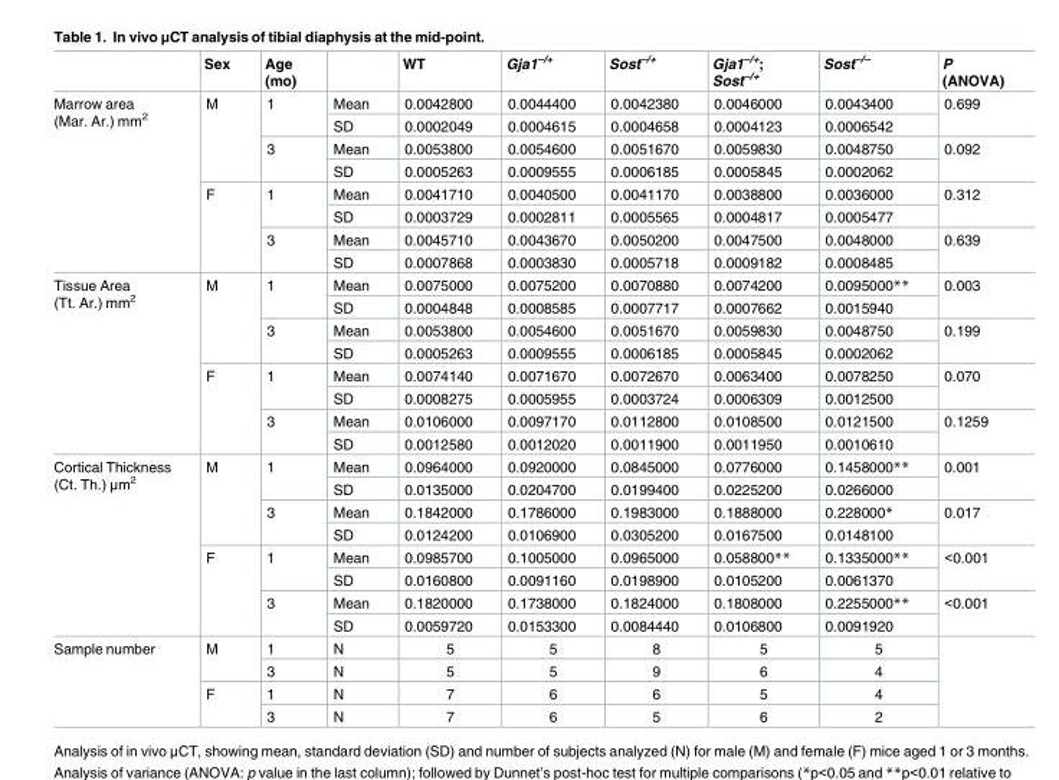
<table><thead><tr><td></td><td>Sex</td><td>Age (mo)</td><td></td><td>WT</td><td>Gja1<sup>–/+</sup></td><td>Sost<sup>–/+</sup></td><td>Gja1<sup>–/+</sup>; Sost<sup>–/+</sup></td><td>Sost<sup>–/–</sup></td><td>P (ANOVA)</td></tr></thead><tbody><tr><td rowspan="8">Marrow area (Mar. Ar.) mm<sup>2</sup></td><td rowspan="4">M</td><td rowspan="2">1</td><td>Mean</td><td>0.0042800</td><td>0.0044400</td><td>0.0042380</td><td>0.0046000</td><td>0.0043400</td><td rowspan="2">0.699</td></tr><tr><td>SD</td><td>0.0002049</td><td>0.0004615</td><td>0.0004658</td><td>0.0004123</td><td>0.0006542</td></tr><tr><td rowspan="2">3</td><td>Mean</td><td>0.0053800</td><td>0.0054600</td><td>0.0051670</td><td>0.0059830</td><td>0.0048750</td><td rowspan="2">0.092</td></tr><tr><td>SD</td><td>0.0005263</td><td>0.0009555</td><td>0.0006185</td><td>0.0005845</td><td>0.0002062</td></tr><tr><td rowspan="4">F</td><td rowspan="2">1</td><td>Mean</td><td>0.0041710</td><td>0.0040500</td><td>0.0041170</td><td>0.0038800</td><td>0.0036000</td><td rowspan="2">0.312</td></tr><tr><td>SD</td><td>0.0003729</td><td>0.0002811</td><td>0.0005565</td><td>0.0004817</td><td>0.0005477</td></tr><tr><td rowspan="2">3</td><td>Mean</td><td>0.0045710</td><td>0.0043670</td><td>0.0050200</td><td>0.0047500</td><td>0.0048000</td><td rowspan="2">0.639</td></tr><tr><td>SD</td><td>0.0007868</td><td>0.0003830</td><td>0.0005718</td><td>0.0009182</td><td>0.0008485</td></tr><tr><td rowspan="8">Tissue Area (Tt. Ar.) mm<sup>2</sup></td><td rowspan="4">M</td><td rowspan="2">1</td><td>Mean</td><td>0.0075000</td><td>0.0075200</td><td>0.0070880</td><td>0.0074200</td><td>0.0095000**</td><td rowspan="2">0.003</td></tr><tr><td>SD</td><td>0.0004848</td><td>0.0008585</td><td>0.0007717</td><td>0.0007662</td><td>0.0015940</td></tr><tr><td rowspan="2">3</td><td>Mean</td><td>0.0053800</td><td>0.0054600</td><td>0.0051670</td><td>0.0059830</td><td>0.0048750</td><td rowspan="2">0.199</td></tr><tr><td>SD</td><td>0.0005263</td><td>0.0009555</td><td>0.0006185</td><td>0.0005845</td><td>0.0002062</td></tr><tr><td rowspan="4">F</td><td rowspan="2">1</td><td>Mean</td><td>0.0074140</td><td>0.0071670</td><td>0.0072670</td><td>0.0063400</td><td>0.0078250</td><td rowspan="2">0.070</td></tr><tr><td>SD</td><td>0.0008275</td><td>0.0005955</td><td>0.0003724</td><td>0.0006309</td><td>0.0012500</td></tr><tr><td rowspan="2">3</td><td>Mean</td><td>0.0106000</td><td>0.0097170</td><td>0.0112800</td><td>0.0108500</td><td>0.0121500</td><td rowspan="2">0.1259</td></tr><tr><td>SD</td><td>0.0012580</td><td>0.0012020</td><td>0.0011900</td><td>0.0011950</td><td>0.0010610</td></tr><tr><td rowspan="8">Cortical Thickness (Ct. Th.) μm<sup>2</sup></td><td rowspan="4">M</td><td rowspan="2">1</td><td>Mean</td><td>0.0964000</td><td>0.0920000</td><td>0.0845000</td><td>0.0776000</td><td>0.1458000**</td><td rowspan="2">0.001</td></tr><tr><td>SD</td><td>0.0135000</td><td>0.0204700</td><td>0.0199400</td><td>0.0225200</td><td>0.0266000</td></tr><tr><td rowspan="2">3</td><td>Mean</td><td>0.1842000</td><td>0.1786000</td><td>0.1983000</td><td>0.1888000</td><td>0.228000*</td><td rowspan="2">0.017</td></tr><tr><td>SD</td><td>0.0124200</td><td>0.0106900</td><td>0.0305200</td><td>0.0167500</td><td>0.0148100</td></tr><tr><td rowspan="4">F</td><td rowspan="2">1</td><td>Mean</td><td>0.0985700</td><td>0.1005000</td><td>0.0965000</td><td>0.058800**</td><td>0.1335000**</td><td rowspan="2">&lt;0.001</td></tr><tr><td>SD</td><td>0.0160800</td><td>0.0091160</td><td>0.0198900</td><td>0.0105200</td><td>0.0061370</td></tr><tr><td rowspan="2">3</td><td>Mean</td><td>0.1820000</td><td>0.1738000</td><td>0.1824000</td><td>0.1808000</td><td>0.2255000**</td><td rowspan="2">&lt;0.001</td></tr><tr><td>SD</td><td>0.0059720</td><td>0.0153300</td><td>0.0084440</td><td>0.0106800</td><td>0.0091920</td></tr><tr><td rowspan="4">Sample number</td><td rowspan="2">M</td><td>1</td><td>N</td><td>5</td><td>5</td><td>8</td><td>5</td><td>5</td><td rowspan="4"></td></tr><tr><td>3</td><td>N</td><td>5</td><td>5</td><td>9</td><td>6</td><td>4</td></tr><tr><td rowspan="2">F</td><td>1</td><td>N</td><td>7</td><td>6</td><td>6</td><td>5</td><td>4</td></tr><tr><td>3</td><td>N</td><td>7</td><td>6</td><td>5</td><td>6</td><td>2</td></tr></tbody></table>